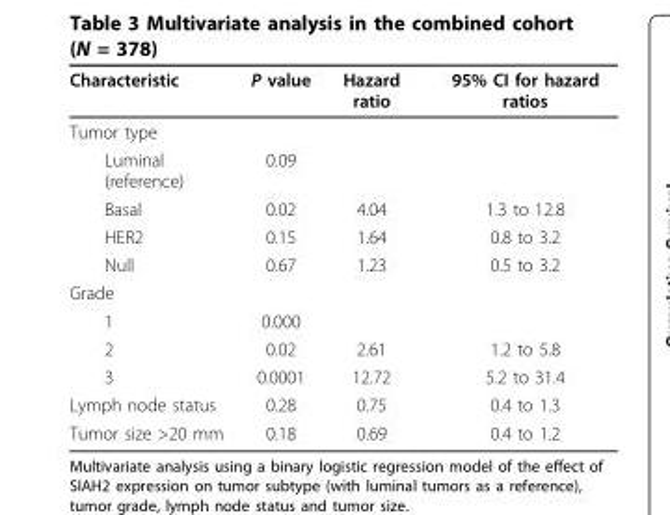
<table><thead><tr><td>Characteristic</td><td>P value</td><td>Hazard ratio</td><td>95% CI for hazard ratios</td></tr></thead><tbody><tr><td colspan="4">Tumor type</td></tr><tr><td>Luminal (reference)</td><td>0.09</td><td></td><td></td></tr><tr><td>Basal</td><td>0.02</td><td>4.04</td><td>1.3 to 12.8</td></tr><tr><td>HER2</td><td>0.15</td><td>1.64</td><td>0.8 to 3.2</td></tr><tr><td>Null</td><td>0.67</td><td>1.23</td><td>0.5 to 3.2</td></tr><tr><td colspan="4">Grade</td></tr><tr><td>1</td><td>0.000</td><td></td><td></td></tr><tr><td>2</td><td>0.02</td><td>2.61</td><td>1.2 to 5.8</td></tr><tr><td>3</td><td>0.0001</td><td>12.72</td><td>5.2 to 31.4</td></tr><tr><td>Lymph node status</td><td>0.28</td><td>0.75</td><td>0.4 to 1.3</td></tr><tr><td>Tumor size &gt;20 mm</td><td>0.18</td><td>0.69</td><td>0.4 to 1.2</td></tr></tbody></table>